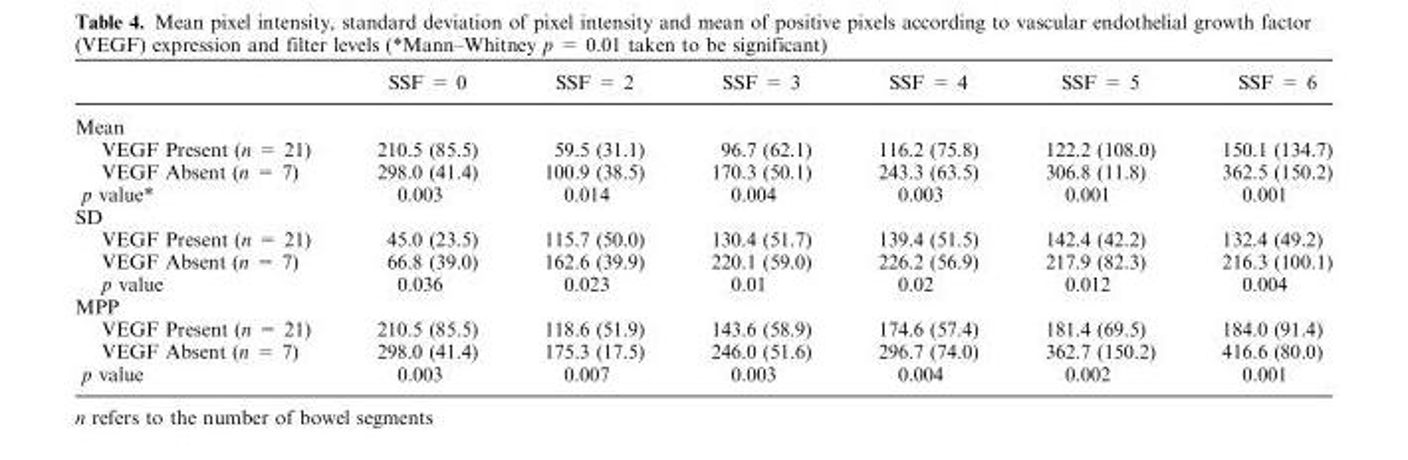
<table><thead><tr><td></td><td>SSF = 0</td><td>SSF = 2</td><td>SSF = 3</td><td>SSF = 4</td><td>SSF = 5</td><td>SSF = 6</td></tr></thead><tbody><tr><td colspan="7">Mean</td></tr><tr><td>VEGF Present (n = 21)</td><td>210.5 (85.5)</td><td>59.5 (31.1)</td><td>96.7 (62.1)</td><td>116.2 (75.8)</td><td>122.2 (108.0)</td><td>150.1 (134.7)</td></tr><tr><td>VEGF Absent (n = 7)</td><td>298.0 (41.4)</td><td>100.9 (38.5)</td><td>170.3 (50.1)</td><td>243.3 (63.5)</td><td>306.8 (11.8)</td><td>362.5 (150.2)</td></tr><tr><td>p value*</td><td>0.003</td><td>0.014</td><td>0.004</td><td>0.003</td><td>0.001</td><td>0.001</td></tr><tr><td colspan="7">SD</td></tr><tr><td>VEGF Present (n = 21)</td><td>45.0 (23.5)</td><td>115.7 (50.0)</td><td>130.4 (51.7)</td><td>139.4 (51.5)</td><td>142.4 (42.2)</td><td>132.4 (49.2)</td></tr><tr><td>VEGF Absent (n = 7)</td><td>66.8 (39.0)</td><td>162.6 (39.9)</td><td>220.1 (59.0)</td><td>226.2 (56.9)</td><td>217.9 (82.3)</td><td>216.3 (100.1)</td></tr><tr><td>p value</td><td>0.036</td><td>0.023</td><td>0.01</td><td>0.02</td><td>0.012</td><td>0.004</td></tr><tr><td colspan="7">MPP</td></tr><tr><td>VEGF Present (n = 21)</td><td>210.5 (85.5)</td><td>118.6 (51.9)</td><td>143.6 (58.9)</td><td>174.6 (57.4)</td><td>181.4 (69.5)</td><td>184.0 (91.4)</td></tr><tr><td>VEGF Absent (n = 7)</td><td>298.0 (41.4)</td><td>175.3 (17.5)</td><td>246.0 (51.6)</td><td>296.7 (74.0)</td><td>362.7 (150.2)</td><td>416.6 (80.0)</td></tr><tr><td>p value</td><td>0.003</td><td>0.007</td><td>0.003</td><td>0.004</td><td>0.002</td><td>0.001</td></tr></tbody></table>